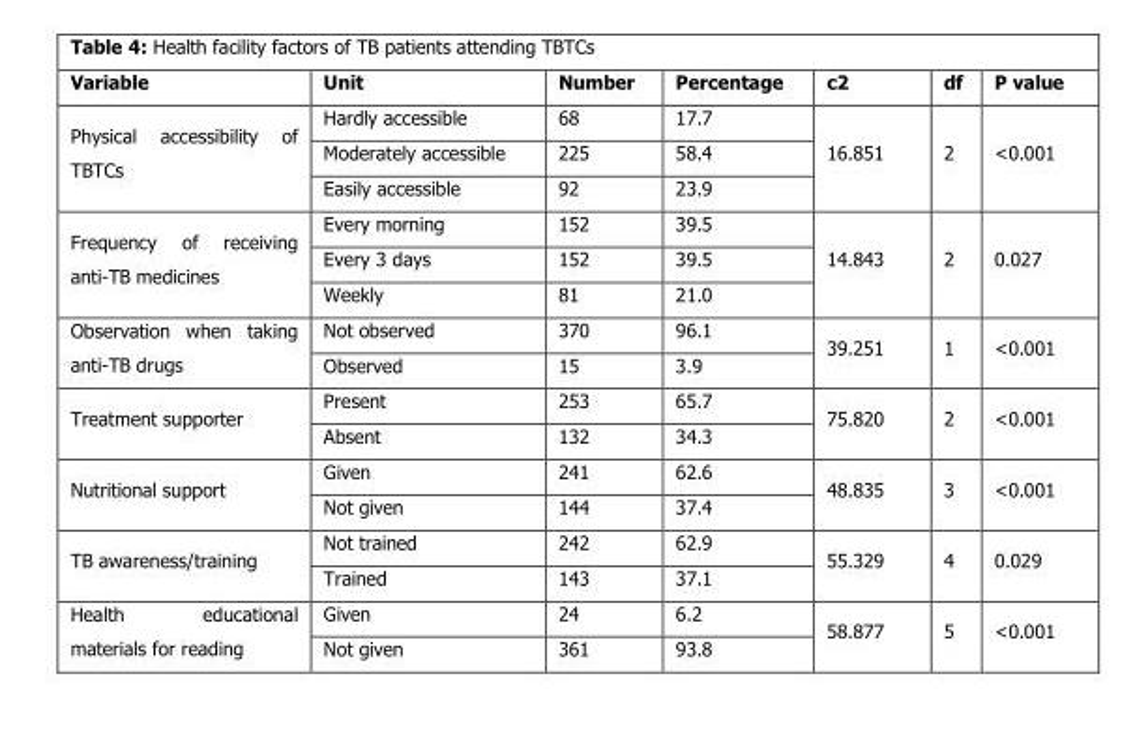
<table><thead><tr><td>Variable</td><td>Unit</td><td>Number</td><td>Percentage</td><td>c2</td><td>df</td><td>P value</td></tr></thead><tbody><tr><td rowspan="3">Physical accessibility of TBTCs</td><td>Hardly accessible</td><td>68</td><td>17.7</td><td rowspan="3">16.851</td><td rowspan="3">2</td><td rowspan="3">&lt;0.001</td></tr><tr><td>Moderately accessible</td><td>225</td><td>58.4</td></tr><tr><td>Easily accessible</td><td>92</td><td>23.9</td></tr><tr><td rowspan="3">Frequency of receiving anti-TB medicines</td><td>Every morning</td><td>152</td><td>39.5</td><td rowspan="3">14.843</td><td rowspan="3">2</td><td rowspan="3">0.027</td></tr><tr><td>Every 3 days</td><td>152</td><td>39.5</td></tr><tr><td>Weekly</td><td>81</td><td>21.0</td></tr><tr><td rowspan="2">Observation when taking anti-TB drugs</td><td>Not observed</td><td>370</td><td>96.1</td><td rowspan="2">39.251</td><td rowspan="2">1</td><td rowspan="2">&lt;0.001</td></tr><tr><td>Observed</td><td>15</td><td>3.9</td></tr><tr><td rowspan="2">Treatment supporter</td><td>Present</td><td>253</td><td>65.7</td><td rowspan="2">75.820</td><td rowspan="2">2</td><td rowspan="2">&lt;0.001</td></tr><tr><td>Absent</td><td>132</td><td>34.3</td></tr><tr><td rowspan="2">Nutritional support</td><td>Given</td><td>241</td><td>62.6</td><td rowspan="2">48.835</td><td rowspan="2">3</td><td rowspan="2">&lt;0.001</td></tr><tr><td>Not given</td><td>144</td><td>37.4</td></tr><tr><td rowspan="2">TB awareness/training</td><td>Not trained</td><td>242</td><td>62.9</td><td rowspan="2">55.329</td><td rowspan="2">4</td><td rowspan="2">0.029</td></tr><tr><td>Trained</td><td>143</td><td>37.1</td></tr><tr><td rowspan="2">Health educational materials for reading</td><td>Given</td><td>24</td><td>6.2</td><td rowspan="2">58.877</td><td rowspan="2">5</td><td rowspan="2">&lt;0.001</td></tr><tr><td>Not given</td><td>361</td><td>93.8</td></tr></tbody></table>